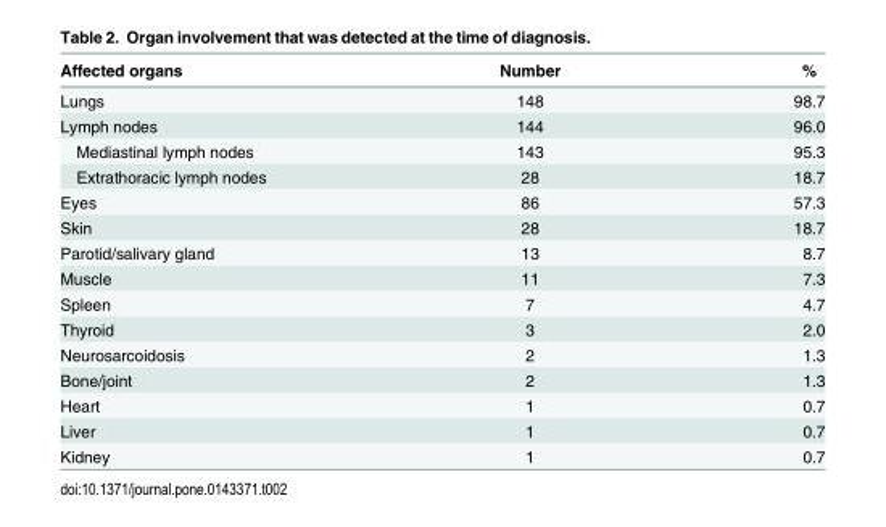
<table><thead><tr><td>Affected organs</td><td>Number</td><td>%</td></tr></thead><tbody><tr><td>Lungs</td><td>148</td><td>98.7</td></tr><tr><td>Lymph nodes</td><td>144</td><td>96.0</td></tr><tr><td>Mediastinal lymph nodes</td><td>143</td><td>95.3</td></tr><tr><td>Extrathoracic lymph nodes</td><td>28</td><td>18.7</td></tr><tr><td>Eyes</td><td>86</td><td>57.3</td></tr><tr><td>Skin</td><td>28</td><td>18.7</td></tr><tr><td>Parotid/salivary gland</td><td>13</td><td>8.7</td></tr><tr><td>Muscle</td><td>11</td><td>7.3</td></tr><tr><td>Spleen</td><td>7</td><td>4.7</td></tr><tr><td>Thyroid</td><td>3</td><td>2.0</td></tr><tr><td>Neurosarcoidosis</td><td>2</td><td>1.3</td></tr><tr><td>Bone/joint</td><td>2</td><td>1.3</td></tr><tr><td>Heart</td><td>1</td><td>0.7</td></tr><tr><td>Liver</td><td>1</td><td>0.7</td></tr><tr><td>Kidney</td><td>1</td><td>0.7</td></tr></tbody></table>